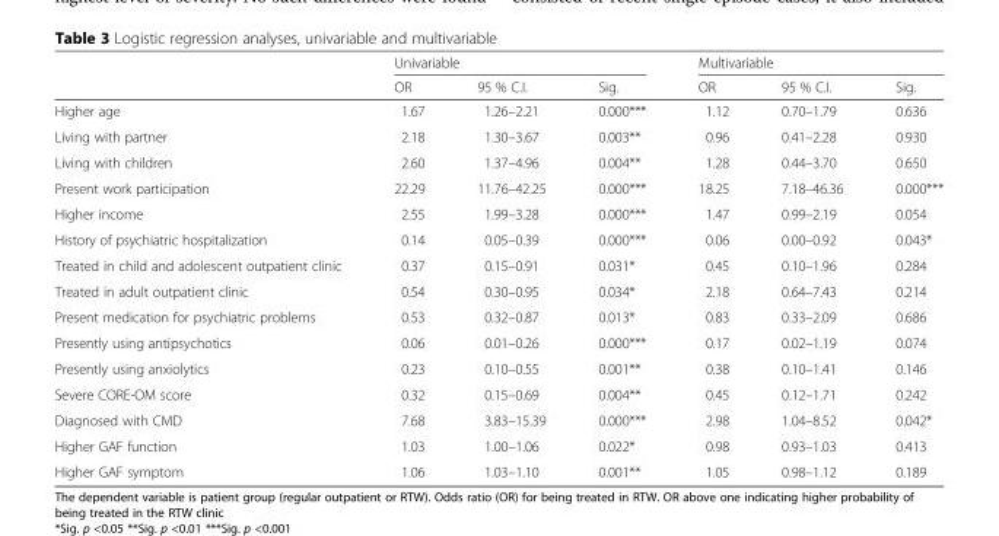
<table><thead><tr><td rowspan="2"></td><td colspan="3">Univariable</td><td colspan="3">Multivariable</td></tr><tr><td>OR</td><td>95 % C.I.</td><td>Sig.</td><td>OR</td><td>95 % C.I.</td><td>Sig.</td></tr></thead><tbody><tr><td>Higher age</td><td>1.67</td><td>1.26–2.21</td><td>0.000***</td><td>1.12</td><td>0.70–1.79</td><td>0.636</td></tr><tr><td>Living with partner</td><td>2.18</td><td>1.30–3.67</td><td>0.003**</td><td>0.96</td><td>0.41–2.28</td><td>0.930</td></tr><tr><td>Living with children</td><td>2.60</td><td>1.37–4.96</td><td>0.004**</td><td>1.28</td><td>0.44–3.70</td><td>0.650</td></tr><tr><td>Present work participation</td><td>22.29</td><td>11.76–42.25</td><td>0.000***</td><td>18.25</td><td>7.18–46.36</td><td>0.000***</td></tr><tr><td>Higher income</td><td>2.55</td><td>1.99–3.28</td><td>0.000***</td><td>1.47</td><td>0.99–2.19</td><td>0.054</td></tr><tr><td>History of psychiatric hospitalization</td><td>0.14</td><td>0.05–0.39</td><td>0.000***</td><td>0.06</td><td>0.00–0.92</td><td>0.043*</td></tr><tr><td>Treated in child and adolescent outpatient clinic</td><td>0.37</td><td>0.15–0.91</td><td>0.031*</td><td>0.45</td><td>0.10–1.96</td><td>0.284</td></tr><tr><td>Treated in adult outpatient clinic</td><td>0.54</td><td>0.30–0.95</td><td>0.034*</td><td>2.18</td><td>0.64–7.43</td><td>0.214</td></tr><tr><td>Present medication for psychiatric problems</td><td>0.53</td><td>0.32–0.87</td><td>0.013*</td><td>0.83</td><td>0.33–2.09</td><td>0.686</td></tr><tr><td>Presently using antipsychotics</td><td>0.06</td><td>0.01–0.26</td><td>0.000***</td><td>0.17</td><td>0.02–1.19</td><td>0.074</td></tr><tr><td>Presently using anxiolytics</td><td>0.23</td><td>0.10–0.55</td><td>0.001**</td><td>0.38</td><td>0.10–1.41</td><td>0.146</td></tr><tr><td>Severe CORE-OM score</td><td>0.32</td><td>0.15–0.69</td><td>0.004**</td><td>0.45</td><td>0.12–1.71</td><td>0.242</td></tr><tr><td>Diagnosed with CMD</td><td>7.68</td><td>3.83–15.39</td><td>0.000***</td><td>2.98</td><td>1.04–8.52</td><td>0.042*</td></tr><tr><td>Higher GAF function</td><td>1.03</td><td>1.00–1.06</td><td>0.022*</td><td>0.98</td><td>0.93–1.03</td><td>0.413</td></tr><tr><td>Higher GAF symptom</td><td>1.06</td><td>1.03–1.10</td><td>0.001**</td><td>1.05</td><td>0.98–1.12</td><td>0.189</td></tr></tbody></table>